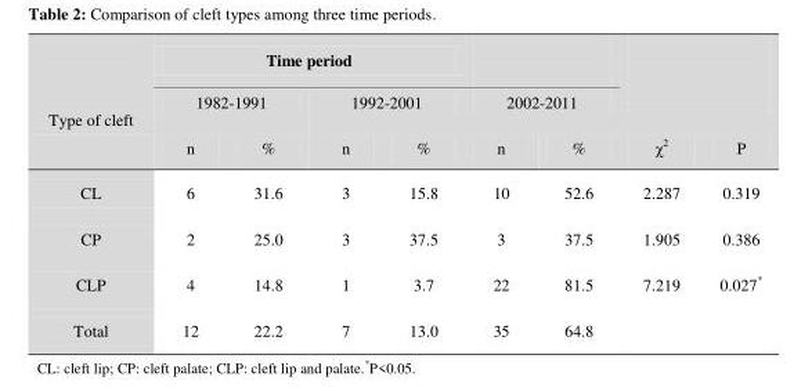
<table><thead><tr><td rowspan="3">Type of cleft</td><td colspan="4">Time period</td><td></td><td></td><td rowspan="3">χ<sup>2</sup></td><td rowspan="3">P</td></tr><tr><td colspan="2">1982-1991</td><td colspan="2">1992-2001</td><td colspan="2">2002-2011</td></tr><tr><td>n</td><td>%</td><td>n</td><td>%</td><td>n</td><td>%</td></tr></thead><tbody><tr><td>CL</td><td>6</td><td>31.6</td><td>3</td><td>15.8</td><td>10</td><td>52.6</td><td>2.287</td><td>0.319</td></tr><tr><td>CP</td><td>2</td><td>25.0</td><td>3</td><td>37.5</td><td>3</td><td>37.5</td><td>1.905</td><td>0.386</td></tr><tr><td>CLP</td><td>4</td><td>14.8</td><td>1</td><td>3.7</td><td>22</td><td>81.5</td><td>7.219</td><td>0.027*</td></tr><tr><td>Total</td><td>12</td><td>22.2</td><td>7</td><td>13.0</td><td>35</td><td>64.8</td><td colspan="2"></td></tr></tbody></table>